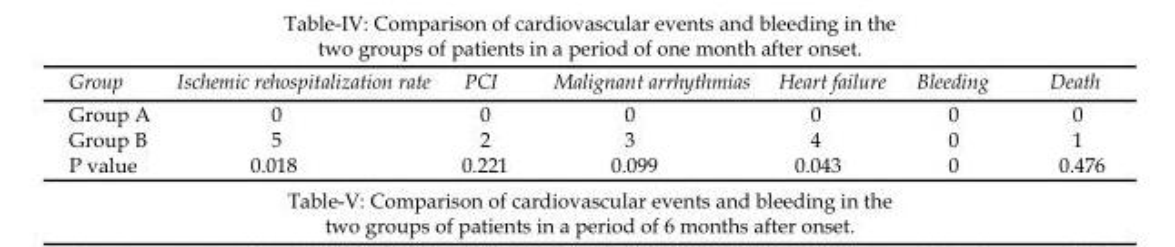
<table><thead><tr><td>Group</td><td>Ischemic rehospitalization rate</td><td>PCI</td><td>Malignant arrhythmias</td><td>Heart failure</td><td>Bleeding</td><td>Death</td></tr></thead><tbody><tr><td>Group A</td><td>0</td><td>0</td><td>0</td><td>0</td><td>0</td><td>0</td></tr><tr><td>Group B</td><td>5</td><td>2</td><td>3</td><td>4</td><td>0</td><td>1</td></tr><tr><td>P value</td><td>0.018</td><td>0.221</td><td>0.099</td><td>0.043</td><td>0</td><td>0.476</td></tr></tbody></table>